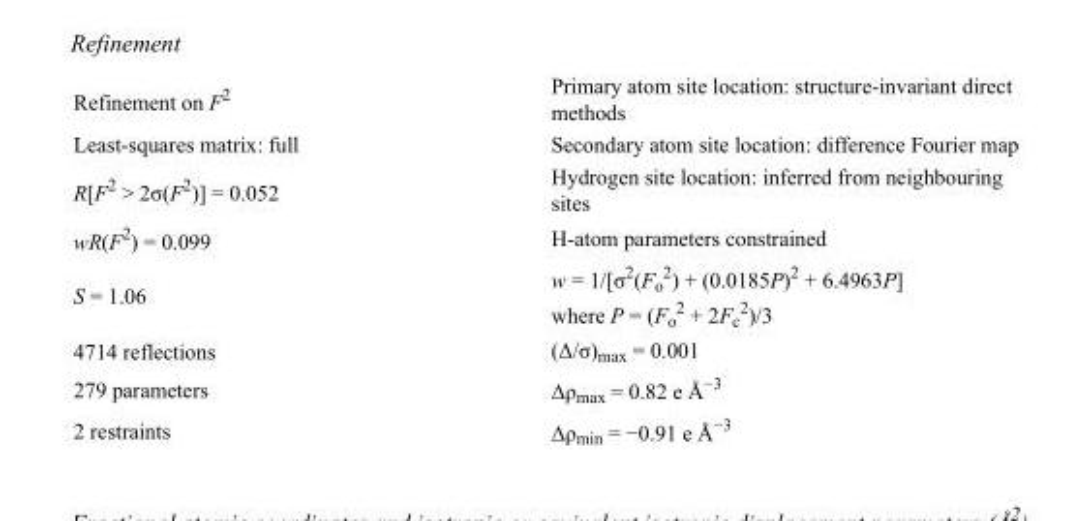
<table><tbody><tr><td>Refinement on F<sup>2</sup></td><td>Primary atom site location: structure-invariant direct methods</td></tr><tr><td>Least-squares matrix: full</td><td>Secondary atom site location: difference Fourier map</td></tr><tr><td>R[F<sup>2</sup> &gt; 2σ(F<sup>2</sup>)] = 0.052</td><td>Hydrogen site location: inferred from neighbouring sites</td></tr><tr><td>wR(F<sup>2</sup>) = 0.099</td><td>H-atom parameters constrained</td></tr><tr><td>S = 1.06</td><td>w = 1/[σ<sup>2</sup>(F<sub>o</sub> <sup>2</sup>) + (0.0185P)<sup>2</sup> + 6.4963P] where P = (F<sub>o</sub> <sup>2</sup> + 2F<sub>c</sub> <sup>2</sup>)/3</td></tr><tr><td>4714 reflections</td><td>(Δ/σ)<sub>max</sub> = 0.001</td></tr><tr><td>279 parameters</td><td>Δρ<sub>max</sub> = 0.82 e Å<sup>−3</sup></td></tr><tr><td>2 restraints</td><td>Δρmin = −0.91 e Å−3</td></tr></tbody></table>